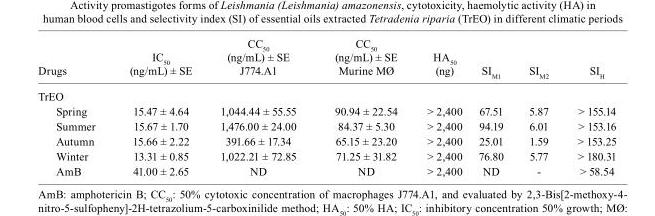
<table><thead><tr><td>Drugs</td><td>IC<sub>50</sub> (ng/mL) ± SE</td><td>CC<sub>50</sub> (ng/mL) ± SE J774.A1</td><td>CC<sub>50</sub> (ng/mL) ± SE Murine MØ</td><td>HA<sub>50</sub> (ng)</td><td>SI<sub>M1</sub></td><td>SI<sub>M2</sub></td><td>SI<sub>H</sub></td></tr></thead><tbody><tr><td colspan="8">TrEO</td></tr><tr><td>Spring</td><td>15.47 ± 4.64</td><td>1,044.44 ± 55.55</td><td>90.94 ± 22.54</td><td>&gt; 2,400</td><td>67.51</td><td>5.87</td><td>&gt; 155.14</td></tr><tr><td>Summer</td><td>15.67 ± 1.70</td><td>1,476.00 ± 24.00</td><td>84.37 ± 5.30</td><td>&gt; 2,400</td><td>94.19</td><td>6.01</td><td>&gt; 153.16</td></tr><tr><td>Autumn</td><td>15.66 ± 2.22</td><td>391.66 ± 17.34</td><td>65.15 ± 23.20</td><td>&gt; 2,400</td><td>25.01</td><td>1.59</td><td>&gt; 153.25</td></tr><tr><td>Winter</td><td>13.31 ± 0.85</td><td>1,022.21 ± 72.85</td><td>71.25 ± 31.82</td><td>&gt; 2,400</td><td>76.80</td><td>5.77</td><td>&gt; 180.31</td></tr><tr><td>AmB</td><td>41.00 ± 2.65</td><td>ND</td><td>ND</td><td>&gt; 2,400</td><td>ND</td><td>-</td><td>&gt; 58.54</td></tr></tbody></table>